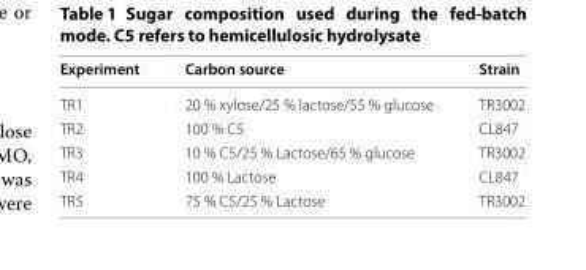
<table><thead><tr><td>Experiment</td><td>Carbon source</td><td>Strain</td></tr></thead><tbody><tr><td>TR1</td><td>20 % xylose/25 % lactose/55 % glucose</td><td>TR3002</td></tr><tr><td>TR2</td><td>100 % C5</td><td>CL847</td></tr><tr><td>TR3</td><td>10 % C5/25 % Lactose/65 % glucose</td><td>TR3002</td></tr><tr><td>TR4</td><td>100 % Lactose</td><td>CL847</td></tr><tr><td>TR5</td><td>75 % C5/25 % Lactose</td><td>TR3002</td></tr></tbody></table>